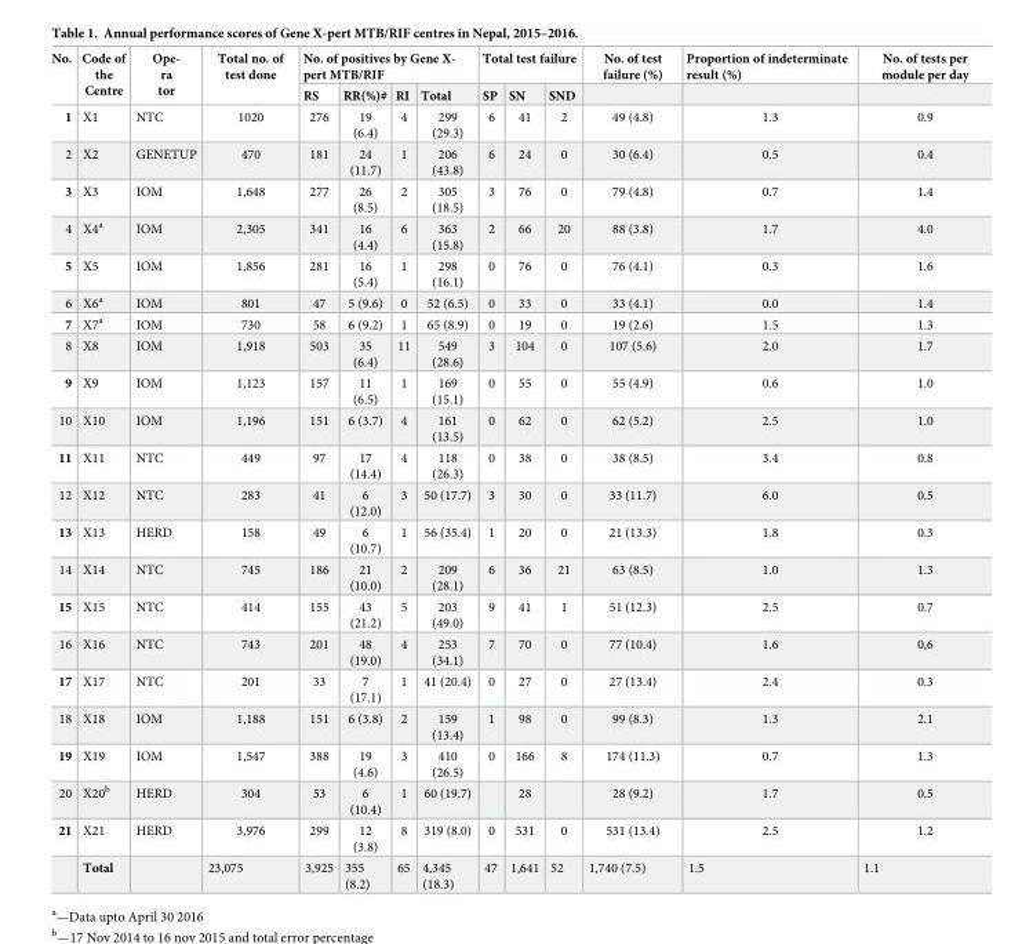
<table><thead><tr><td rowspan="2">No.</td><td rowspan="2">Code of the Centre</td><td rowspan="2">Ope- ra tor</td><td rowspan="2">Total no. of test done</td><td colspan="4">No. of positives by Gene X- pert MTB/RIF</td><td colspan="3">Total test failure</td><td rowspan="2">No. of test failure (%)</td><td rowspan="2">Proportion of indeterminate result (%)</td><td rowspan="2">No. of tests per module per day</td></tr><tr><td>RS</td><td>RR(%)#</td><td>RI</td><td>Total</td><td>SP</td><td>SN</td><td>SND</td></tr></thead><tbody><tr><td>1</td><td>X1</td><td>NTC</td><td>1020</td><td>276</td><td>19 (6.4)</td><td>4</td><td>299 (29.3)</td><td>6</td><td>41</td><td>2</td><td>49 (4.8)</td><td>1.3</td><td>0.9</td></tr><tr><td>2</td><td>X2</td><td>GENETUP</td><td>470</td><td>181</td><td>24 (11.7)</td><td>1</td><td>206 (43.8)</td><td>6</td><td>24</td><td>0</td><td>30 (6.4)</td><td>0.5</td><td>0.4</td></tr><tr><td>3</td><td>X3</td><td>IOM</td><td>1,648</td><td>277</td><td>26 (8.5)</td><td>2</td><td>305 (18.5)</td><td>3</td><td>76</td><td>0</td><td>79 (4.8)</td><td>0.7</td><td>1.4</td></tr><tr><td>4</td><td>X4<sup>a</sup></td><td>IOM</td><td>2,305</td><td>341</td><td>16 (4.4)</td><td>6</td><td>363 (15.8)</td><td>2</td><td>66</td><td>20</td><td>88 (3.8)</td><td>1.7</td><td>4.0</td></tr><tr><td>5</td><td>X5</td><td>IOM</td><td>1,856</td><td>281</td><td>16 (5.4)</td><td>1</td><td>298 (16.1)</td><td>0</td><td>76</td><td>0</td><td>76 (4.1)</td><td>0.3</td><td>1.6</td></tr><tr><td>6</td><td>X6<sup>a</sup></td><td>IOM</td><td>801</td><td>47</td><td>5 (9.6)</td><td>0</td><td>52 (6.5)</td><td>0</td><td>33</td><td>0</td><td>33 (4.1)</td><td>0.0</td><td>1.4</td></tr><tr><td>7</td><td>X7<sup>a</sup></td><td>IOM</td><td>730</td><td>58</td><td>6 (9.2)</td><td>1</td><td>65 (8.9)</td><td>0</td><td>19</td><td>0</td><td>19 (2.6)</td><td>1.5</td><td>1.3</td></tr><tr><td>8</td><td>X8</td><td>IOM</td><td>1,918</td><td>503</td><td>35 (6.4)</td><td>11</td><td>549 (28.6)</td><td>3</td><td>104</td><td>0</td><td>107 (5.6)</td><td>2.0</td><td>1.7</td></tr><tr><td>9</td><td>X9</td><td>IOM</td><td>1,123</td><td>157</td><td>11 (6.5)</td><td>1</td><td>169 (15.1)</td><td>0</td><td>55</td><td>0</td><td>55 (4.9)</td><td>0.6</td><td>1.0</td></tr><tr><td>10</td><td>X10</td><td>IOM</td><td>1,196</td><td>151</td><td>6 (3.7)</td><td>4</td><td>161 (13.5)</td><td>0</td><td>62</td><td>0</td><td>62 (5.2)</td><td>2.5</td><td>1.0</td></tr><tr><td>11</td><td>X11</td><td>NTC</td><td>449</td><td>97</td><td>17 (14.4)</td><td>4</td><td>118 (26.3)</td><td>0</td><td>38</td><td>0</td><td>38 (8.5)</td><td>3.4</td><td>0.8</td></tr><tr><td>12</td><td>X12</td><td>NTC</td><td>283</td><td>41</td><td>6 (12.0)</td><td>3</td><td>50 (17.7)</td><td>3</td><td>30</td><td>0</td><td>33 (11.7)</td><td>6.0</td><td>0.5</td></tr><tr><td>13</td><td>X13</td><td>HERD</td><td>158</td><td>49</td><td>6 (10.7)</td><td>1</td><td>56 (35.4)</td><td>1</td><td>20</td><td>0</td><td>21 (13.3)</td><td>1.8</td><td>0.3</td></tr><tr><td>14</td><td>X14</td><td>NTC</td><td>745</td><td>186</td><td>21 (10.0)</td><td>2</td><td>209 (28.1)</td><td>6</td><td>36</td><td>21</td><td>63 (8.5)</td><td>1.0</td><td>1.3</td></tr><tr><td>15</td><td>X15</td><td>NTC</td><td>414</td><td>155</td><td>43 (21.2)</td><td>5</td><td>203 (49.0)</td><td>9</td><td>41</td><td>1</td><td>51 (12.3)</td><td>2.5</td><td>0.7</td></tr><tr><td>16</td><td>X16</td><td>NTC</td><td>743</td><td>201</td><td>48 (19.0)</td><td>4</td><td>253 (34.1)</td><td>7</td><td>70</td><td>0</td><td>77 (10.4)</td><td>1.6</td><td>0,6</td></tr><tr><td>17</td><td>X17</td><td>NTC</td><td>201</td><td>33</td><td>7 (17.1)</td><td>1</td><td>41 (20.4)</td><td>0</td><td>27</td><td>0</td><td>27 (13.4)</td><td>2.4</td><td>0.3</td></tr><tr><td>18</td><td>X18</td><td>IOM</td><td>1,188</td><td>151</td><td>6 (3.8)</td><td>2</td><td>159 (13.4)</td><td>1</td><td>98</td><td>0</td><td>99 (8.3)</td><td>1.3</td><td>2.1</td></tr><tr><td>19</td><td>X19</td><td>IOM</td><td>1,547</td><td>388</td><td>19 (4.6)</td><td>3</td><td>410 (26.5)</td><td>0</td><td>166</td><td>8</td><td>174 (11.3)</td><td>0.7</td><td>1.3</td></tr><tr><td>20</td><td>X20<sup>b</sup></td><td>HERD</td><td>304</td><td>53</td><td>6 (10.4)</td><td>1</td><td>60 (19.7)</td><td></td><td>28</td><td></td><td>28 (9.2)</td><td>1.7</td><td>0.5</td></tr><tr><td rowspan="2">21</td><td>X21</td><td>HERD</td><td>3,976</td><td>299</td><td>12 (3.8)</td><td>8</td><td>319 (8.0)</td><td>0</td><td>531</td><td>0</td><td>531 (13.4)</td><td>2.5</td><td>1.2</td></tr><tr><td>Total</td><td></td><td>23,075</td><td>3,925</td><td>355 (8.2)</td><td>65</td><td>4,345 (18.3)</td><td>47</td><td>1,641</td><td>52</td><td>1,740 (7.5)</td><td>1.5</td><td>1.1</td></tr></tbody></table>